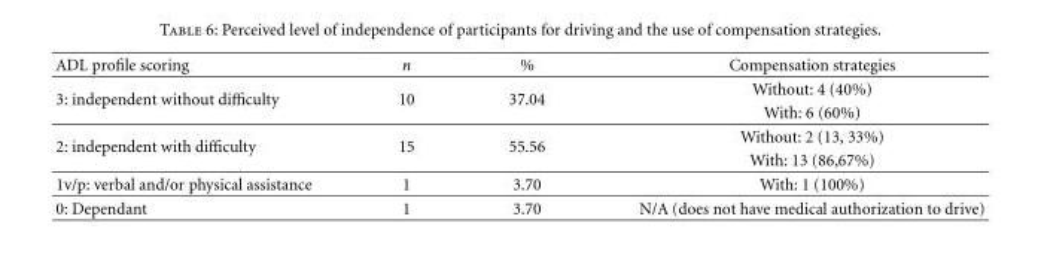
<table><thead><tr><td>ADL profile scoring</td><td>n</td><td>%</td><td>Compensation strategies</td></tr></thead><tbody><tr><td rowspan="2">3: independent without difficulty</td><td rowspan="2">10</td><td rowspan="2">37.04</td><td>Without: 4 (40%)</td></tr><tr><td>With: 6 (60%)</td></tr><tr><td rowspan="2">2: independent with difficulty</td><td rowspan="2">15</td><td rowspan="2">55.56</td><td>Without: 2 (13, 33%)</td></tr><tr><td>With: 13 (86,67%)</td></tr><tr><td>1v/p: verbal and/or physical assistance</td><td>1</td><td>3.70</td><td>With: 1 (100%)</td></tr><tr><td>0: Dependant</td><td>1</td><td>3.70</td><td>N/A (does not have medical authorization to drive)</td></tr></tbody></table>